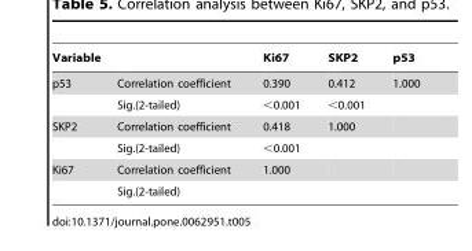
<table><thead><tr><td>Variable</td><td></td><td>Ki67</td><td>SKP2</td><td>p53</td></tr></thead><tbody><tr><td rowspan="2">p53</td><td>Correlation coefficient</td><td>0.390</td><td>0.412</td><td>1.000</td></tr><tr><td>Sig.(2-tailed)</td><td>&lt;0.001</td><td>&lt;0.001</td><td></td></tr><tr><td rowspan="2">SKP2</td><td>Correlation coefficient</td><td>0.418</td><td>1.000</td><td></td></tr><tr><td>Sig.(2-tailed)</td><td>&lt;0.001</td><td></td><td></td></tr><tr><td rowspan="2">Ki67</td><td>Correlation coefficient</td><td>1.000</td><td></td><td></td></tr><tr><td>Sig.(2-tailed)</td><td></td><td></td><td></td></tr></tbody></table>